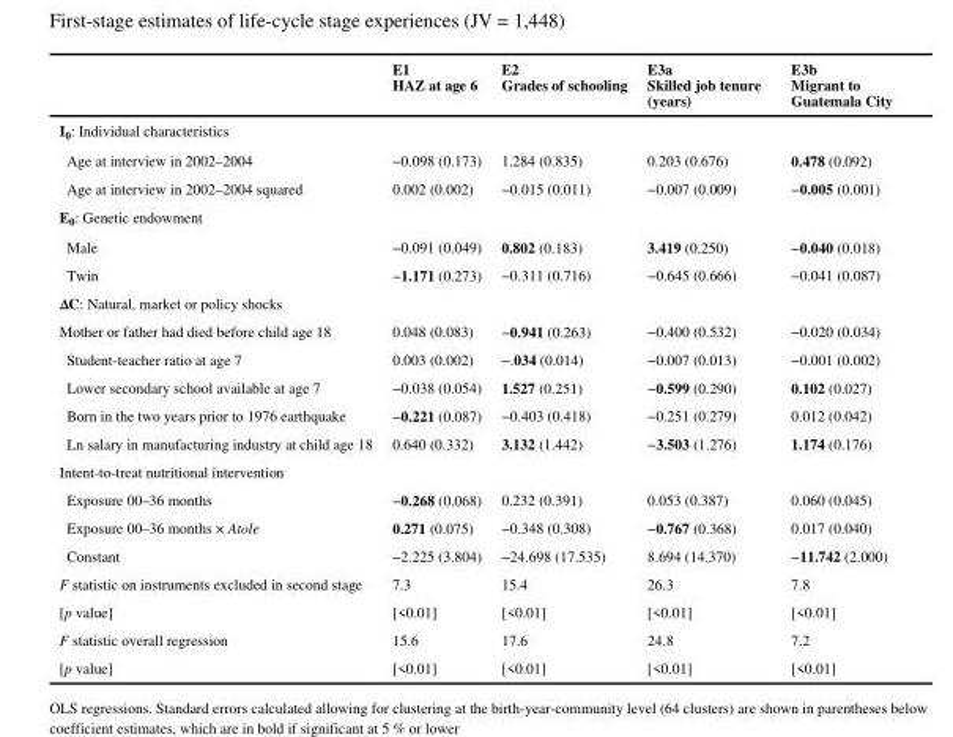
<table><thead><tr><td></td><td>E1 HAZ at age 6</td><td>E2 Grades of schooling</td><td>E3a Skilled job tenure (years)</td><td>E3b Migrant to Guatemala City</td></tr></thead><tbody><tr><td colspan="5">I<sub>0</sub>: Individual characteristics</td></tr><tr><td>Age at interview in 2002–2004</td><td>−0.098 (0.173)</td><td>1.284 (0.835)</td><td>0.203 (0.676)</td><td>0.478 (0.092)</td></tr><tr><td>Age at interview in 2002–2004 squared</td><td>0.002 (0.002)</td><td>−0.015 (0.011)</td><td>−0.007 (0.009)</td><td>−0.005 (0.001)</td></tr><tr><td colspan="5">E<sub>0</sub>: Genetic endowment</td></tr><tr><td>Male</td><td>−0.091 (0.049)</td><td>0.802 (0.183)</td><td>3.419 (0.250)</td><td>−0.040 (0.018)</td></tr><tr><td>Twin</td><td>−1.171 (0.273)</td><td>−0.311 (0.716)</td><td>−0.645 (0.666)</td><td>−0.041 (0.087)</td></tr><tr><td colspan="5">ΔC: Natural, market or policy shocks</td></tr><tr><td>Mother or father had died before child age 18</td><td>0.048 (0.083)</td><td>−0.941 (0.263)</td><td>−0.400 (0.532)</td><td>−0.020 (0.034)</td></tr><tr><td>Student-teacher ratio at age 7</td><td>0.003 (0.002)</td><td>−.034 (0.014)</td><td>−0.007 (0.013)</td><td>−0.001 (0.002)</td></tr><tr><td>Lower secondary school available at age 7</td><td>−0.038 (0.054)</td><td>1.527 (0.251)</td><td>−0.599 (0.290)</td><td>0.102 (0.027)</td></tr><tr><td>Born in the two years prior to 1976 earthquake</td><td>−0.221 (0.087)</td><td>−0.403 (0.418)</td><td>−0.251 (0.279)</td><td>0.012 (0.042)</td></tr><tr><td>Ln salary in manufacturing industry at child age 18</td><td>0.640 (0.332)</td><td>3.132 (1.442)</td><td>−3.503 (1.276)</td><td>1.174 (0.176)</td></tr><tr><td colspan="5">Intent-to-treat nutritional intervention</td></tr><tr><td>Exposure 00–36 months</td><td>−0.268 (0.068)</td><td>0.232 (0.391)</td><td>0.053 (0.387)</td><td>0.060 (0.045)</td></tr><tr><td>Exposure 00–36 months × Atole</td><td>0.271 (0.075)</td><td>−0.348 (0.308)</td><td>−0.767 (0.368)</td><td>0.017 (0.040)</td></tr><tr><td>Constant</td><td>−2.225 (3.804)</td><td>−24.698 (17.535)</td><td>8.694 (14.370)</td><td>−11.742 (2.000)</td></tr><tr><td>F statistic on instruments excluded in second stage</td><td>7.3</td><td>15.4</td><td>26.3</td><td>7.8</td></tr><tr><td>[p value]</td><td>[&lt;0.01]</td><td>[&lt;0.01]</td><td>[&lt;0.01]</td><td>[&lt;0.01]</td></tr><tr><td>F statistic overall regression</td><td>15.6</td><td>17.6</td><td>24.8</td><td>7.2</td></tr><tr><td>[p value]</td><td>[&lt;0.01]</td><td>[&lt;0.01]</td><td>[&lt;0.01]</td><td>[&lt;0.01]</td></tr></tbody></table>